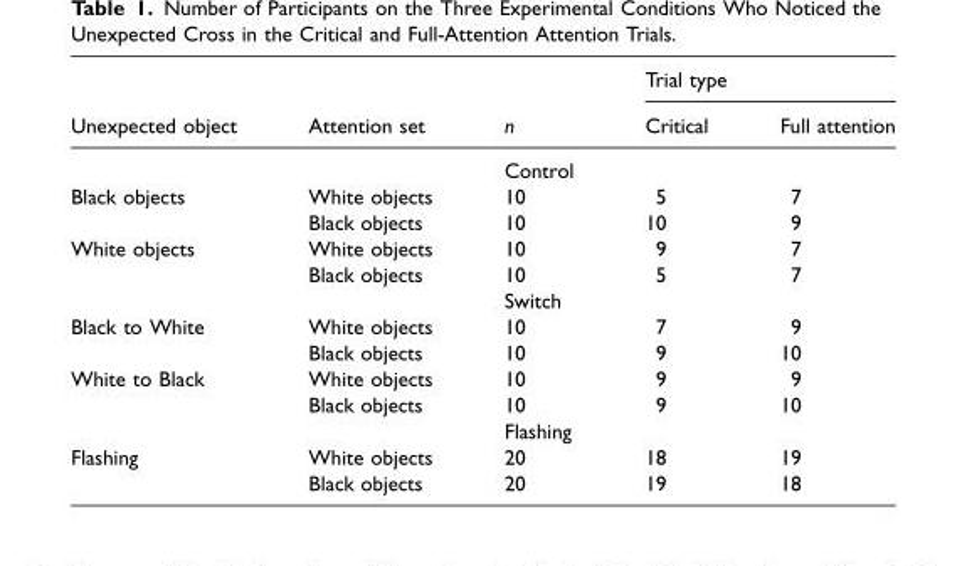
<table><thead><tr><td rowspan="2">Unexpected object</td><td rowspan="2">Attention set</td><td rowspan="2">n</td><td colspan="2">Trial type</td></tr><tr><td>Critical</td><td>Full attention</td></tr></thead><tbody><tr><td></td><td></td><td>Control</td><td></td><td></td></tr><tr><td rowspan="2">Black objects</td><td>White objects</td><td>10</td><td>5</td><td>7</td></tr><tr><td>Black objects</td><td>10</td><td>10</td><td>9</td></tr><tr><td rowspan="3">White objects</td><td>White objects</td><td>10</td><td>9</td><td>7</td></tr><tr><td>Black objects</td><td>10</td><td>5</td><td>7</td></tr><tr><td></td><td>Switch</td><td></td><td></td></tr><tr><td rowspan="2">Black to White</td><td>White objects</td><td>10</td><td>7</td><td>9</td></tr><tr><td>Black objects</td><td>10</td><td>9</td><td>10</td></tr><tr><td rowspan="3">White to Black</td><td>White objects</td><td>10</td><td>9</td><td>9</td></tr><tr><td>Black objects</td><td>10</td><td>9</td><td>10</td></tr><tr><td></td><td>Flashing</td><td></td><td></td></tr><tr><td rowspan="2">Flashing</td><td>White objects</td><td>20</td><td>18</td><td>19</td></tr><tr><td>Black objects</td><td>20</td><td>19</td><td>18</td></tr></tbody></table>